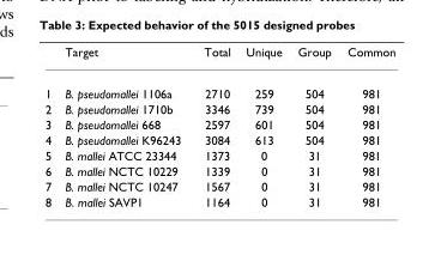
<table><thead><tr><td></td><td>Target</td><td>Total</td><td>Unique</td><td>Group</td><td>Common</td></tr></thead><tbody><tr><td>1</td><td>B. pseudomallei 1106a</td><td>2710</td><td>259</td><td>504</td><td>981</td></tr><tr><td>2</td><td>B. pseudomallei 1710b</td><td>3346</td><td>739</td><td>504</td><td>981</td></tr><tr><td>3</td><td>B. pseudomallei 668</td><td>2597</td><td>601</td><td>504</td><td>981</td></tr><tr><td>4</td><td>B. pseudomallei K96243</td><td>3084</td><td>613</td><td>504</td><td>981</td></tr><tr><td>5</td><td>B. mallei ATCC 23344</td><td>1373</td><td>0</td><td>31</td><td>981</td></tr><tr><td>6</td><td>B. mallei NCTC 10229</td><td>1339</td><td>0</td><td>31</td><td>981</td></tr><tr><td>7</td><td>B. mallei NCTC 10247</td><td>1567</td><td>0</td><td>31</td><td>981</td></tr><tr><td>8</td><td>B. mallei SAVP1</td><td>1164</td><td>0</td><td>31</td><td>981</td></tr></tbody></table>